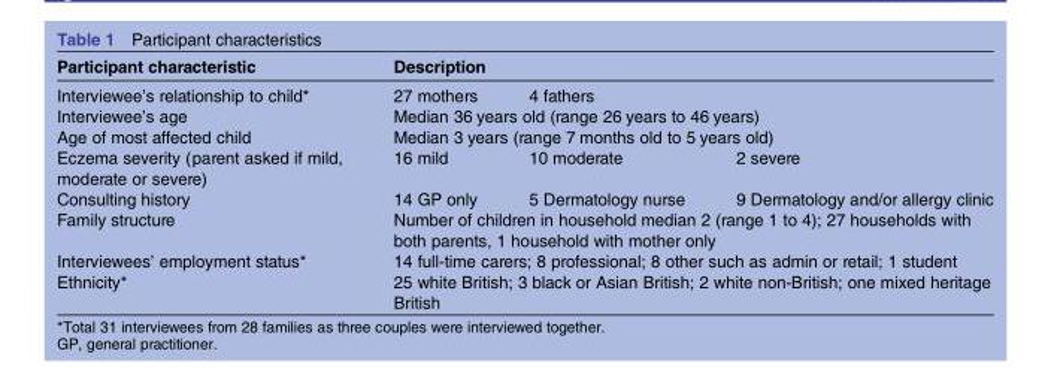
<table><thead><tr><td>Participant characteristic</td><td colspan="3">Description</td></tr></thead><tbody><tr><td>Interviewee’s relationship to child*</td><td>27 mothers</td><td colspan="2">4 fathers</td></tr><tr><td>Interviewee’s age</td><td colspan="3">Median 36 years old (range 26 years to 46 years)</td></tr><tr><td>Age of most affected child</td><td colspan="3">Median 3 years (range 7 months old to 5 years old)</td></tr><tr><td>Eczema severity (parent asked if mild, moderate or severe)</td><td>16 mild</td><td>10 moderate</td><td>2 severe</td></tr><tr><td>Consulting history</td><td>14 GP only</td><td>5 Dermatology nurse</td><td>9 Dermatology and/or allergy clinic</td></tr><tr><td>Family structure</td><td colspan="3">Number of children in household median 2 (range 1 to 4); 27 households with both parents, 1 household with mother only</td></tr><tr><td>Interviewees’ employment status*</td><td colspan="3">14 full-time carers; 8 professional; 8 other such as admin or retail; 1 student</td></tr><tr><td>Ethnicity*</td><td colspan="3">25 white British; 3 black or Asian British; 2 white non-British; one mixed heritage British</td></tr></tbody></table>